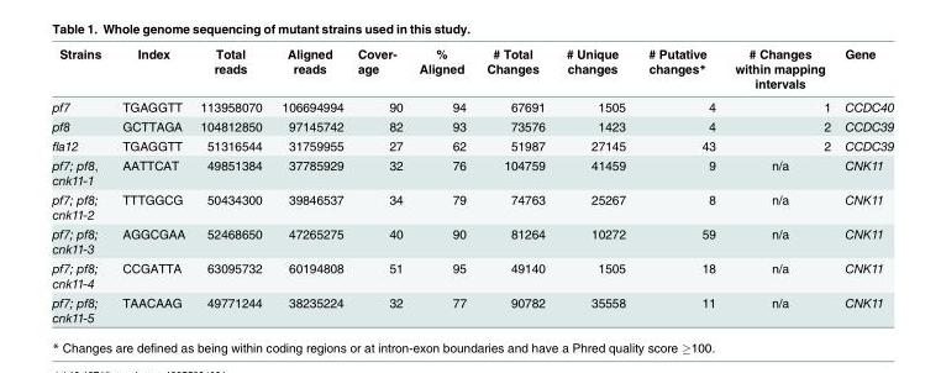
<table><thead><tr><td>Strains</td><td>Index</td><td>Total reads</td><td>Aligned reads</td><td>Cover- age</td><td>% Aligned</td><td># Total Changes</td><td># Unique changes</td><td># Putative changes*</td><td># Changes within mapping intervals</td><td>Gene</td></tr></thead><tbody><tr><td>pf7</td><td>TGAGGTT</td><td>113958070</td><td>106694994</td><td>90</td><td>94</td><td>67691</td><td>1505</td><td>4</td><td>1</td><td>CCDC40</td></tr><tr><td>pf8</td><td>GCTTAGA</td><td>104812850</td><td>97145742</td><td>82</td><td>93</td><td>73576</td><td>1423</td><td>4</td><td>2</td><td>CCDC39</td></tr><tr><td>fla12</td><td>TGAGGTT</td><td>51316544</td><td>31759955</td><td>27</td><td>62</td><td>51987</td><td>27145</td><td>43</td><td>2</td><td>CCDC39</td></tr><tr><td>pf7; pf8, cnk11-1</td><td>AATTCAT</td><td>49851384</td><td>37785929</td><td>32</td><td>76</td><td>104759</td><td>41459</td><td>9</td><td>n/a</td><td>CNK11</td></tr><tr><td>pf7; pf8; cnk11-2</td><td>TTTGGCG</td><td>50434300</td><td>39846537</td><td>34</td><td>79</td><td>74763</td><td>25267</td><td>8</td><td>n/a</td><td>CNK11</td></tr><tr><td>pf7; pf8; cnk11-3</td><td>AGGCGAA</td><td>52468650</td><td>47265275</td><td>40</td><td>90</td><td>81264</td><td>10272</td><td>59</td><td>n/a</td><td>CNK11</td></tr><tr><td>pf7; pf8; cnk11-4</td><td>CCGATTA</td><td>63095732</td><td>60194808</td><td>51</td><td>95</td><td>49140</td><td>1505</td><td>18</td><td>n/a</td><td>CNK11</td></tr><tr><td>pf7; pf8; cnk11-5</td><td>TAACAAG</td><td>49771244</td><td>38235224</td><td>32</td><td>77</td><td>90782</td><td>35558</td><td>11</td><td>n/a</td><td>CNK11</td></tr></tbody></table>